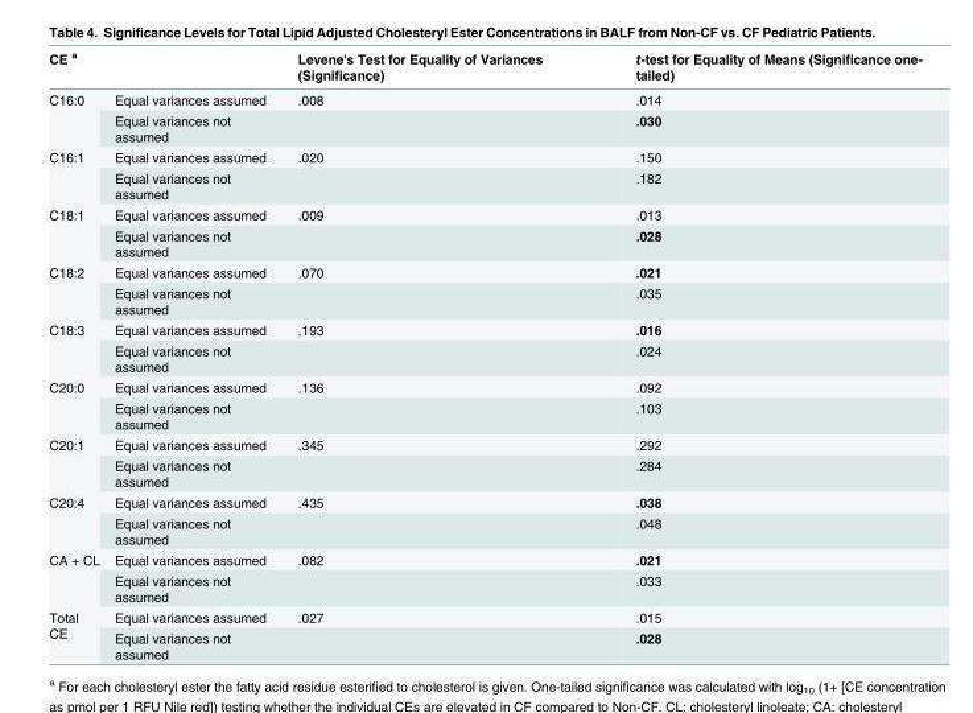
<table><thead><tr><td>CE <sup>a</sup></td><td></td><td>Levene&#x27;s Test for Equality of Variances (Significance)</td><td>t-test for Equality of Means (Significance one- tailed)</td></tr></thead><tbody><tr><td rowspan="2">C16:0</td><td>Equal variances assumed</td><td>.008</td><td>.014</td></tr><tr><td>Equal variances not assumed</td><td></td><td>.030</td></tr><tr><td rowspan="2">C16:1</td><td>Equal variances assumed</td><td>.020</td><td>.150</td></tr><tr><td>Equal variances not assumed</td><td></td><td>.182</td></tr><tr><td rowspan="2">C18:1</td><td>Equal variances assumed</td><td>.009</td><td>.013</td></tr><tr><td>Equal variances not assumed</td><td></td><td>.028</td></tr><tr><td rowspan="2">C18:2</td><td>Equal variances assumed</td><td>.070</td><td>.021</td></tr><tr><td>Equal variances not assumed</td><td></td><td>.035</td></tr><tr><td rowspan="2">C18:3</td><td>Equal variances assumed</td><td>.193</td><td>.016</td></tr><tr><td>Equal variances not assumed</td><td></td><td>.024</td></tr><tr><td rowspan="2">C20:0</td><td>Equal variances assumed</td><td>.136</td><td>.092</td></tr><tr><td>Equal variances not assumed</td><td></td><td>.103</td></tr><tr><td rowspan="2">C20:1</td><td>Equal variances assumed</td><td>.345</td><td>.292</td></tr><tr><td>Equal variances not assumed</td><td></td><td>.284</td></tr><tr><td rowspan="2">C20:4</td><td>Equal variances assumed</td><td>.435</td><td>.038</td></tr><tr><td>Equal variances not assumed</td><td></td><td>.048</td></tr><tr><td rowspan="2">CA + CL</td><td>Equal variances assumed</td><td>.082</td><td>.021</td></tr><tr><td>Equal variances not assumed</td><td></td><td>.033</td></tr><tr><td rowspan="2">Total CE</td><td>Equal variances assumed</td><td>.027</td><td>.015</td></tr><tr><td>Equal variances not assumed</td><td></td><td>.028</td></tr></tbody></table>